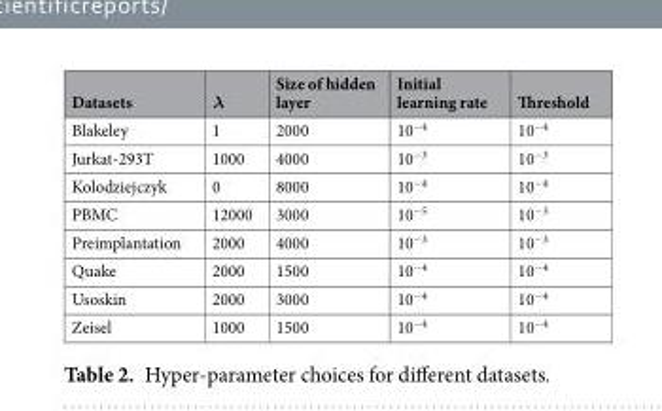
<table><thead><tr><td>Datasets</td><td>λ</td><td>Size of hidden layer</td><td>Initial learning rate</td><td>Threshold</td></tr></thead><tbody><tr><td>Blakeley</td><td>1</td><td>2000</td><td>10<sup>−4</sup></td><td>10<sup>−4</sup></td></tr><tr><td>Jurkat-293T</td><td>1000</td><td>4000</td><td>10<sup>−3</sup></td><td>10<sup>−3</sup></td></tr><tr><td>Kolodziejczyk</td><td>0</td><td>8000</td><td>10<sup>−4</sup></td><td>10<sup>−4</sup></td></tr><tr><td>PBMC</td><td>12000</td><td>3000</td><td>10<sup>−5</sup></td><td>10<sup>−3</sup></td></tr><tr><td>Preimplantation</td><td>2000</td><td>4000</td><td>10<sup>−3</sup></td><td>10<sup>−3</sup></td></tr><tr><td>Quake</td><td>2000</td><td>1500</td><td>10<sup>−4</sup></td><td>10<sup>−4</sup></td></tr><tr><td>Usoskin</td><td>2000</td><td>3000</td><td>10<sup>−4</sup></td><td>10<sup>−4</sup></td></tr><tr><td>Zeisel</td><td>1000</td><td>1500</td><td>10<sup>−4</sup></td><td>10<sup>−4</sup></td></tr></tbody></table>